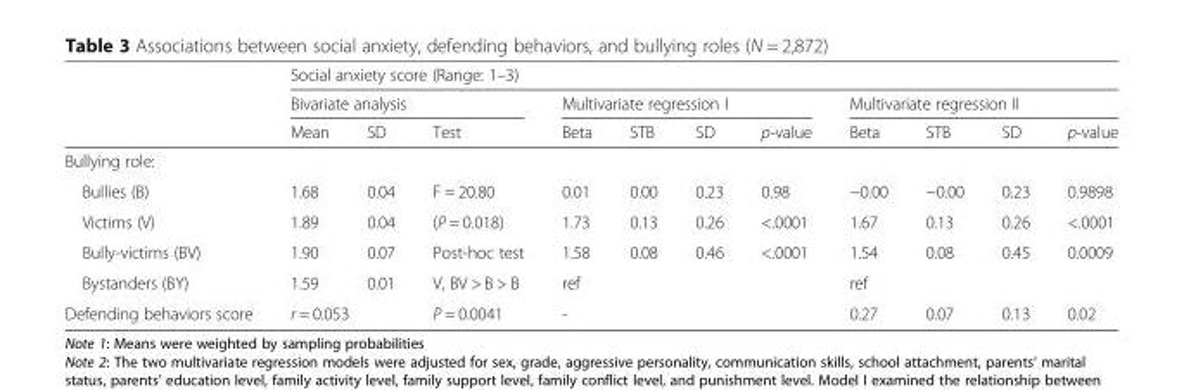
<table><thead><tr><td rowspan="3"></td><td colspan="11">Social anxiety score (Range: 1–3)</td></tr><tr><td colspan="3">Bivariate analysis</td><td colspan="4">Multivariate regression I</td><td colspan="4">Multivariate regression II</td></tr><tr><td>Mean</td><td>SD</td><td>Test</td><td>Beta</td><td>STB</td><td>SD</td><td>p-value</td><td>Beta</td><td>STB</td><td>SD</td><td>p-value</td></tr></thead><tbody><tr><td colspan="12">Bullying role:</td></tr><tr><td>Bullies (B)</td><td>1.68</td><td>0.04</td><td>F = 20.80</td><td>0.01</td><td>0.00</td><td>0.23</td><td>0.98</td><td>−0.00</td><td>−0.00</td><td>0.23</td><td>0.9898</td></tr><tr><td>Victims (V)</td><td>1.89</td><td>0.04</td><td>(P = 0.018)</td><td>1.73</td><td>0.13</td><td>0.26</td><td>&lt;.0001</td><td>1.67</td><td>0.13</td><td>0.26</td><td>&lt;.0001</td></tr><tr><td>Bully-victims (BV)</td><td>1.90</td><td>0.07</td><td>Post-hoc test</td><td>1.58</td><td>0.08</td><td>0.46</td><td>&lt;.0001</td><td>1.54</td><td>0.08</td><td>0.45</td><td>0.0009</td></tr><tr><td>Bystanders (BY)</td><td>1.59</td><td>0.01</td><td>V, BV &gt; B &gt; B</td><td colspan="4">ref</td><td colspan="4">ref</td></tr><tr><td>Defending behaviors score</td><td colspan="2">r = 0.053</td><td>P = 0.0041</td><td colspan="4">-</td><td>0.27</td><td>0.07</td><td>0.13</td><td>0.02</td></tr></tbody></table>